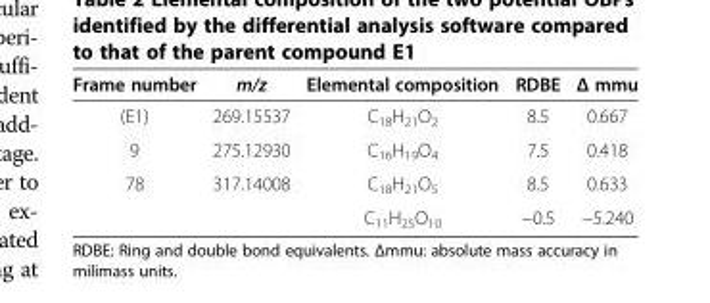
<table><thead><tr><td>Frame number</td><td>m/z</td><td>Elemental composition</td><td>RDBE</td><td>Δ mmu</td></tr></thead><tbody><tr><td>(E1)</td><td>269.15537</td><td>C<sub>18</sub>H<sub>21</sub>O<sub>2</sub></td><td>8.5</td><td>0.667</td></tr><tr><td>9</td><td>275.12930</td><td>C<sub>16</sub>H<sub>19</sub>O<sub>4</sub></td><td>7.5</td><td>0.418</td></tr><tr><td rowspan="2">78</td><td rowspan="2">317.14008</td><td>C<sub>18</sub>H<sub>21</sub>O<sub>5</sub></td><td>8.5</td><td>0.633</td></tr><tr><td>C<sub>11</sub>H<sub>25</sub>O<sub>10</sub></td><td>−0.5</td><td>−5.240</td></tr></tbody></table>